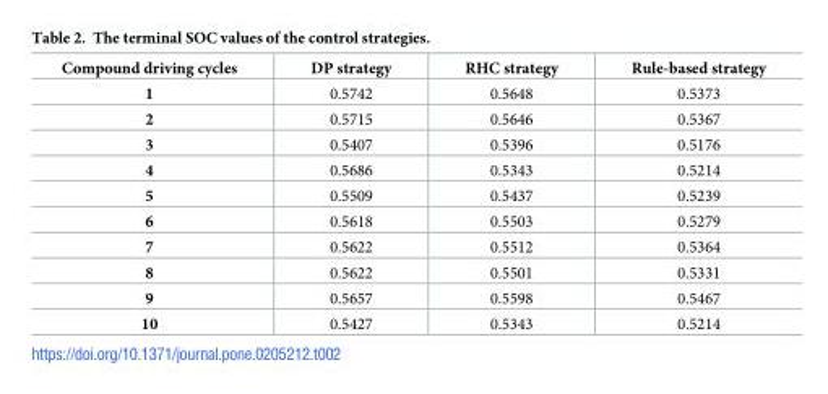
<table><thead><tr><td>Compound driving cycles</td><td>DP strategy</td><td>RHC strategy</td><td>Rule-based strategy</td></tr></thead><tbody><tr><td>1</td><td>0.5742</td><td>0.5648</td><td>0.5373</td></tr><tr><td>2</td><td>0.5715</td><td>0.5646</td><td>0.5367</td></tr><tr><td>3</td><td>0.5407</td><td>0.5396</td><td>0.5176</td></tr><tr><td>4</td><td>0.5686</td><td>0.5343</td><td>0.5214</td></tr><tr><td>5</td><td>0.5509</td><td>0.5437</td><td>0.5239</td></tr><tr><td>6</td><td>0.5618</td><td>0.5503</td><td>0.5279</td></tr><tr><td>7</td><td>0.5622</td><td>0.5512</td><td>0.5364</td></tr><tr><td>8</td><td>0.5622</td><td>0.5501</td><td>0.5331</td></tr><tr><td>9</td><td>0.5657</td><td>0.5598</td><td>0.5467</td></tr><tr><td>10</td><td>0.5427</td><td>0.5343</td><td>0.5214</td></tr></tbody></table>